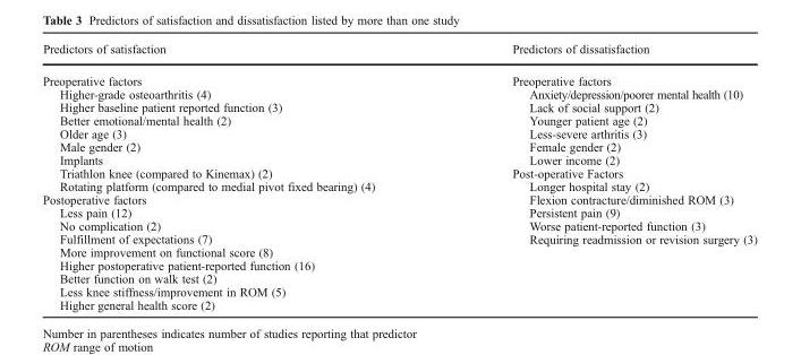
<table><thead><tr><td>Predictors of satisfaction</td><td>Predictors of dissatisfaction</td></tr></thead><tbody><tr><td>Preoperative factors Higher-grade osteoarthritis (4) Higher baseline patient reported function (3) Better emotional/mental health (2) Older age (3) Male gender (2) Implants Triathlon knee (compared to Kinemax) (2) Rotating platform (compared to medial pivot fixed bearing) (4) Postoperative factors Less pain (12) No complication (2) Fulfillment of expectations (7) More improvement on functional score (8) Higher postoperative patient-reported function (16) Better function on walk test (2) Less knee stiffness/improvement in ROM (5) Higher general health score (2)</td><td>Preoperative factors Anxiety/depression/poorer mental health (10) Lack of social support (2) Younger patient age (2) Less-severe arthritis (3) Female gender (2) Lower income (2) Post-operative Factors Longer hospital stay (2) Flexion contracture/diminished ROM (3) Persistent pain (9) Worse patient-reported function (3) Requiring readmission or revision surgery (3)</td></tr></tbody></table>